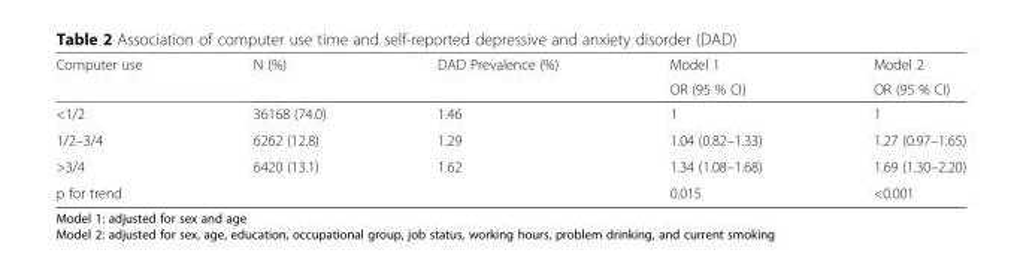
<table><thead><tr><td rowspan="2">Computer use</td><td rowspan="2">N (%)</td><td rowspan="2">DAD Prevalence (%)</td><td rowspan="2">Model 1 OR (95 % CI)</td><td rowspan="2">Model 2 OR (95 % CI)</td></tr><tr></tr></thead><tbody><tr><td>&lt;1/2</td><td>36168 (74.0)</td><td>1.46</td><td>1</td><td>1</td></tr><tr><td>1/2–3/4</td><td>6262 (12.8)</td><td>1.29</td><td>1.04 (0.82–1.33)</td><td>1.27 (0.97–1.65)</td></tr><tr><td>&gt;3/4</td><td>6420 (13.1)</td><td>1.62</td><td>1.34 (1.08–1.68)</td><td>1.69 (1.30–2.20)</td></tr><tr><td>p for trend</td><td></td><td></td><td>0.015</td><td>&lt;0.001</td></tr></tbody></table>